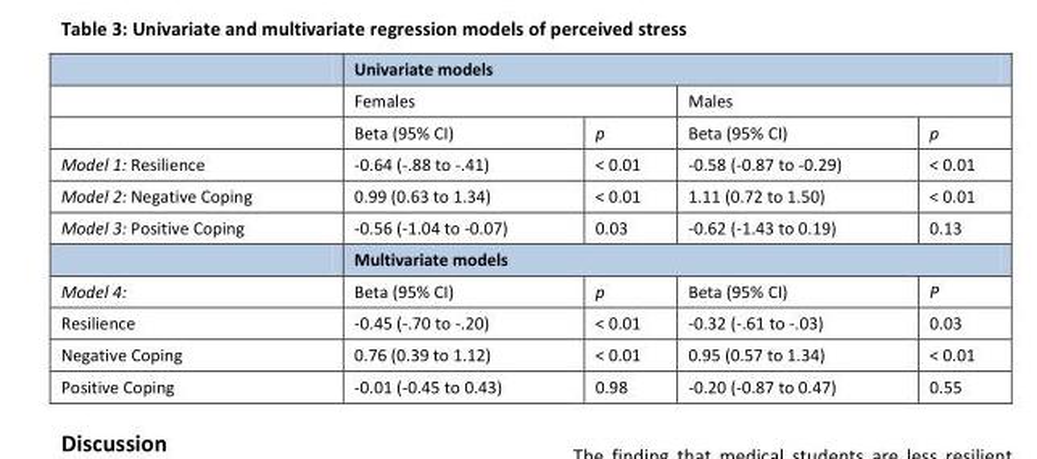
<table><thead><tr><td rowspan="3"></td><td colspan="4">Univariate models</td></tr><tr><td colspan="2">Females</td><td colspan="2">Males</td></tr><tr><td>Beta (95% CI)</td><td>p</td><td>Beta (95% CI)</td><td>p</td></tr></thead><tbody><tr><td>Model 1: Resilience</td><td>-0.64 (-.88 to -.41)</td><td>&lt; 0.01</td><td>-0.58 (-0.87 to -0.29)</td><td>&lt; 0.01</td></tr><tr><td>Model 2: Negative Coping</td><td>0.99 (0.63 to 1.34)</td><td>&lt; 0.01</td><td>1.11 (0.72 to 1.50)</td><td>&lt; 0.01</td></tr><tr><td rowspan="2">Model 3: Positive Coping</td><td>-0.56 (-1.04 to -0.07)</td><td>0.03</td><td>-0.62 (-1.43 to 0.19)</td><td>0.13</td></tr><tr><td colspan="4">Multivariate models</td></tr><tr><td>Model 4:</td><td>Beta (95% CI)</td><td>p</td><td>Beta (95% CI)</td><td>P</td></tr><tr><td>Resilience</td><td>-0.45 (-.70 to -.20)</td><td>&lt; 0.01</td><td>-0.32 (-.61 to -.03)</td><td>0.03</td></tr><tr><td>Negative Coping</td><td>0.76 (0.39 to 1.12)</td><td>&lt; 0.01</td><td>0.95 (0.57 to 1.34)</td><td>&lt; 0.01</td></tr><tr><td>Positive Coping</td><td>-0.01 (-0.45 to 0.43)</td><td>0.98</td><td>-0.20 (-0.87 to 0.47)</td><td>0.55</td></tr></tbody></table>